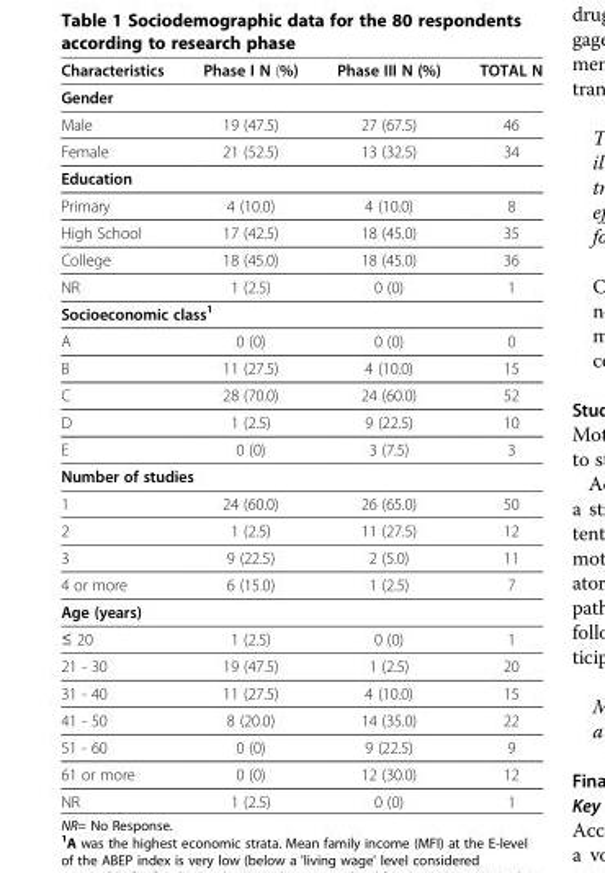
<table><thead><tr><td>Characteristics</td><td>Phase I N (%)</td><td>Phase III N (%)</td><td>TOTAL N</td></tr></thead><tbody><tr><td colspan="4">Gender</td></tr><tr><td>Male</td><td>19 (47.5)</td><td>27 (67.5)</td><td>46</td></tr><tr><td>Female</td><td>21 (52.5)</td><td>13 (32.5)</td><td>34</td></tr><tr><td colspan="4">Education</td></tr><tr><td>Primary</td><td>4 (10.0)</td><td>4 (10.0)</td><td>8</td></tr><tr><td>High School</td><td>17 (42.5)</td><td>18 (45.0)</td><td>35</td></tr><tr><td>College</td><td>18 (45.0)</td><td>18 (45.0)</td><td>36</td></tr><tr><td>NR</td><td>1 (2.5)</td><td>0 (0)</td><td>1</td></tr><tr><td colspan="4">Socioeconomic class<sup>1</sup></td></tr><tr><td>A</td><td>0 (0)</td><td>0 (0)</td><td>0</td></tr><tr><td>B</td><td>11 (27.5)</td><td>4 (10.0)</td><td>15</td></tr><tr><td>C</td><td>28 (70.0)</td><td>24 (60.0)</td><td>52</td></tr><tr><td>D</td><td>1 (2.5)</td><td>9 (22.5)</td><td>10</td></tr><tr><td>E</td><td>0 (0)</td><td>3 (7.5)</td><td>3</td></tr><tr><td colspan="4">Number of studies</td></tr><tr><td>1</td><td>24 (60.0)</td><td>26 (65.0)</td><td>50</td></tr><tr><td>2</td><td>1 (2.5)</td><td>11 (27.5)</td><td>12</td></tr><tr><td>3</td><td>9 (22.5)</td><td>2 (5.0)</td><td>11</td></tr><tr><td>4 or more</td><td>6 (15.0)</td><td>1 (2.5)</td><td>7</td></tr><tr><td colspan="4">Age (years)</td></tr><tr><td>≤ 20</td><td>1 (2.5)</td><td>0 (0)</td><td>1</td></tr><tr><td>21 - 30</td><td>19 (47.5)</td><td>1 (2.5)</td><td>20</td></tr><tr><td>31 - 40</td><td>11 (27.5)</td><td>4 (10.0)</td><td>15</td></tr><tr><td>41 - 50</td><td>8 (20.0)</td><td>14 (35.0)</td><td>22</td></tr><tr><td>51 - 60</td><td>0 (0)</td><td>9 (22.5)</td><td>9</td></tr><tr><td>61 or more</td><td>0 (0)</td><td>12 (30.0)</td><td>12</td></tr><tr><td>NR</td><td>1 (2.5)</td><td>0 (0)</td><td>1</td></tr></tbody></table>